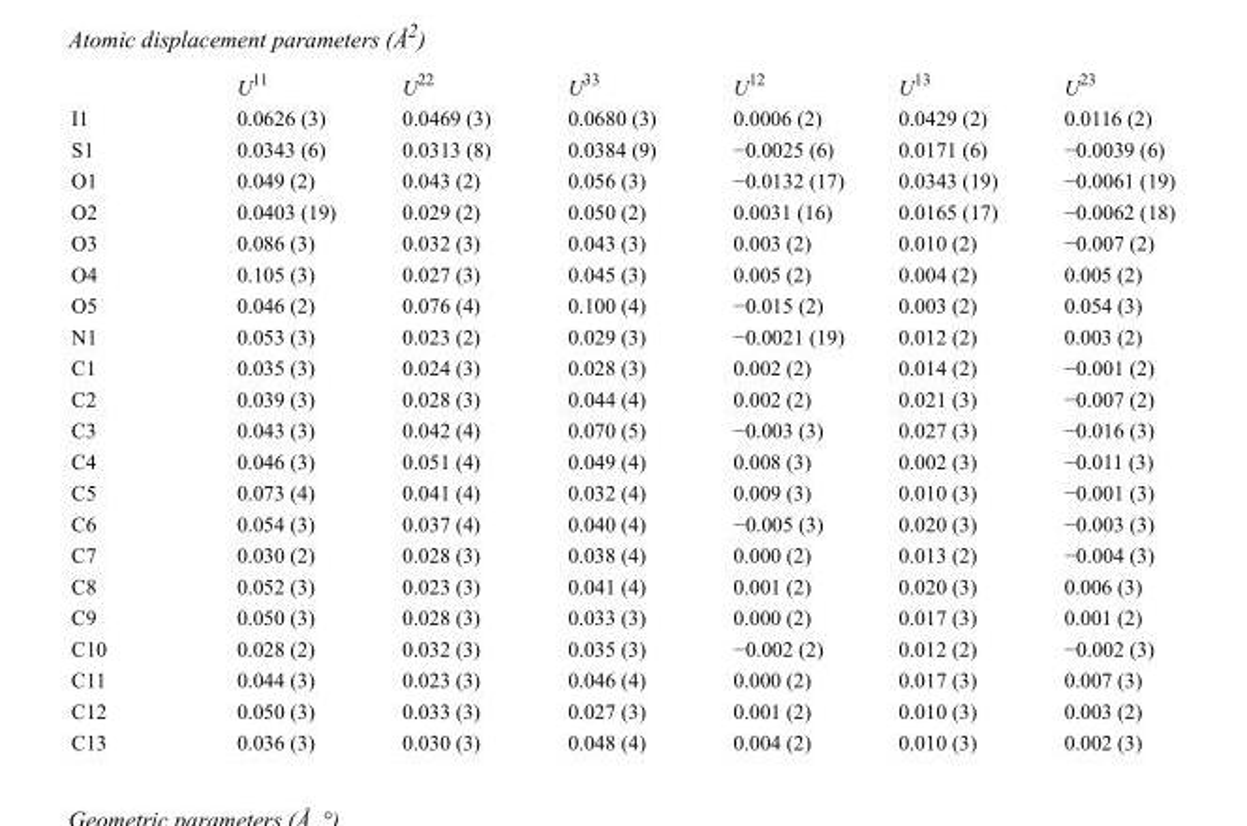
<table><thead><tr><td></td><td>U<sup>11</sup></td><td>U<sup>22</sup></td><td>U<sup>33</sup></td><td>U<sup>12</sup></td><td>U<sup>13</sup></td><td>U<sup>23</sup></td></tr></thead><tbody><tr><td>I1</td><td>0.0626 (3)</td><td>0.0469 (3)</td><td>0.0680 (3)</td><td>0.0006 (2)</td><td>0.0429 (2)</td><td>0.0116 (2)</td></tr><tr><td>S1</td><td>0.0343 (6)</td><td>0.0313 (8)</td><td>0.0384 (9)</td><td>−0.0025 (6)</td><td>0.0171 (6)</td><td>−0.0039 (6)</td></tr><tr><td>O1</td><td>0.049 (2)</td><td>0.043 (2)</td><td>0.056 (3)</td><td>−0.0132 (17)</td><td>0.0343 (19)</td><td>−0.0061 (19)</td></tr><tr><td>O2</td><td>0.0403 (19)</td><td>0.029 (2)</td><td>0.050 (2)</td><td>0.0031 (16)</td><td>0.0165 (17)</td><td>−0.0062 (18)</td></tr><tr><td>O3</td><td>0.086 (3)</td><td>0.032 (3)</td><td>0.043 (3)</td><td>0.003 (2)</td><td>0.010 (2)</td><td>−0.007 (2)</td></tr><tr><td>O4</td><td>0.105 (3)</td><td>0.027 (3)</td><td>0.045 (3)</td><td>0.005 (2)</td><td>0.004 (2)</td><td>0.005 (2)</td></tr><tr><td>O5</td><td>0.046 (2)</td><td>0.076 (4)</td><td>0.100 (4)</td><td>−0.015 (2)</td><td>0.003 (2)</td><td>0.054 (3)</td></tr><tr><td>N1</td><td>0.053 (3)</td><td>0.023 (2)</td><td>0.029 (3)</td><td>−0.0021 (19)</td><td>0.012 (2)</td><td>0.003 (2)</td></tr><tr><td>C1</td><td>0.035 (3)</td><td>0.024 (3)</td><td>0.028 (3)</td><td>0.002 (2)</td><td>0.014 (2)</td><td>−0.001 (2)</td></tr><tr><td>C2</td><td>0.039 (3)</td><td>0.028 (3)</td><td>0.044 (4)</td><td>0.002 (2)</td><td>0.021 (3)</td><td>−0.007 (2)</td></tr><tr><td>C3</td><td>0.043 (3)</td><td>0.042 (4)</td><td>0.070 (5)</td><td>−0.003 (3)</td><td>0.027 (3)</td><td>−0.016 (3)</td></tr><tr><td>C4</td><td>0.046 (3)</td><td>0.051 (4)</td><td>0.049 (4)</td><td>0.008 (3)</td><td>0.002 (3)</td><td>−0.011 (3)</td></tr><tr><td>C5</td><td>0.073 (4)</td><td>0.041 (4)</td><td>0.032 (4)</td><td>0.009 (3)</td><td>0.010 (3)</td><td>−0.001 (3)</td></tr><tr><td>C6</td><td>0.054 (3)</td><td>0.037 (4)</td><td>0.040 (4)</td><td>−0.005 (3)</td><td>0.020 (3)</td><td>−0.003 (3)</td></tr><tr><td>C7</td><td>0.030 (2)</td><td>0.028 (3)</td><td>0.038 (4)</td><td>0.000 (2)</td><td>0.013 (2)</td><td>−0.004 (3)</td></tr><tr><td>C8</td><td>0.052 (3)</td><td>0.023 (3)</td><td>0.041 (4)</td><td>0.001 (2)</td><td>0.020 (3)</td><td>0.006 (3)</td></tr><tr><td>C9</td><td>0.050 (3)</td><td>0.028 (3)</td><td>0.033 (3)</td><td>0.000 (2)</td><td>0.017 (3)</td><td>0.001 (2)</td></tr><tr><td>C10</td><td>0.028 (2)</td><td>0.032 (3)</td><td>0.035 (3)</td><td>−0.002 (2)</td><td>0.012 (2)</td><td>−0.002 (3)</td></tr><tr><td>C11</td><td>0.044 (3)</td><td>0.023 (3)</td><td>0.046 (4)</td><td>0.000 (2)</td><td>0.017 (3)</td><td>0.007 (3)</td></tr><tr><td>C12</td><td>0.050 (3)</td><td>0.033 (3)</td><td>0.027 (3)</td><td>0.001 (2)</td><td>0.010 (3)</td><td>0.003 (2)</td></tr><tr><td>C13</td><td>0.036 (3)</td><td>0.030 (3)</td><td>0.048 (4)</td><td>0.004 (2)</td><td>0.010 (3)</td><td>0.002 (3)</td></tr></tbody></table>